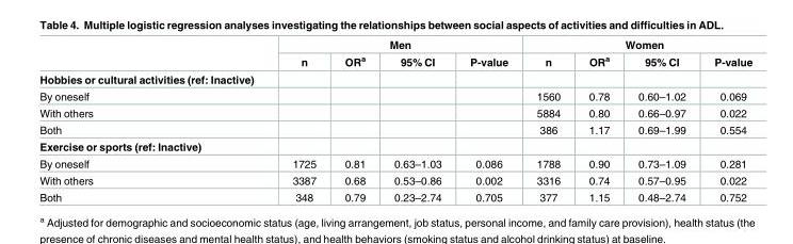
<table><thead><tr><td rowspan="2"></td><td colspan="4">Men</td><td colspan="4">Women</td></tr><tr><td>n</td><td>OR<sup>a</sup></td><td>95% CI</td><td>P-value</td><td>n</td><td>OR<sup>a</sup></td><td>95% CI</td><td>P-value</td></tr></thead><tbody><tr><td colspan="9">Hobbies or cultural activities (ref: Inactive)</td></tr><tr><td>By oneself</td><td></td><td></td><td></td><td></td><td>1560</td><td>0.78</td><td>0.60–1.02</td><td>0.069</td></tr><tr><td>With others</td><td></td><td></td><td></td><td></td><td>5884</td><td>0.80</td><td>0.66–0.97</td><td>0.022</td></tr><tr><td>Both</td><td></td><td></td><td></td><td></td><td>386</td><td>1.17</td><td>0.69–1.99</td><td>0.554</td></tr><tr><td colspan="9">Exercise or sports (ref: Inactive)</td></tr><tr><td>By oneself</td><td>1725</td><td>0.81</td><td>0.63–1.03</td><td>0.086</td><td>1788</td><td>0.90</td><td>0.73–1.09</td><td>0.281</td></tr><tr><td>With others</td><td>3387</td><td>0.68</td><td>0.53–0.86</td><td>0.002</td><td>3316</td><td>0.74</td><td>0.57–0.95</td><td>0.022</td></tr><tr><td>Both</td><td>348</td><td>0.79</td><td>0.23–2.74</td><td>0.705</td><td>377</td><td>1.15</td><td>0.48–2.74</td><td>0.752</td></tr></tbody></table>